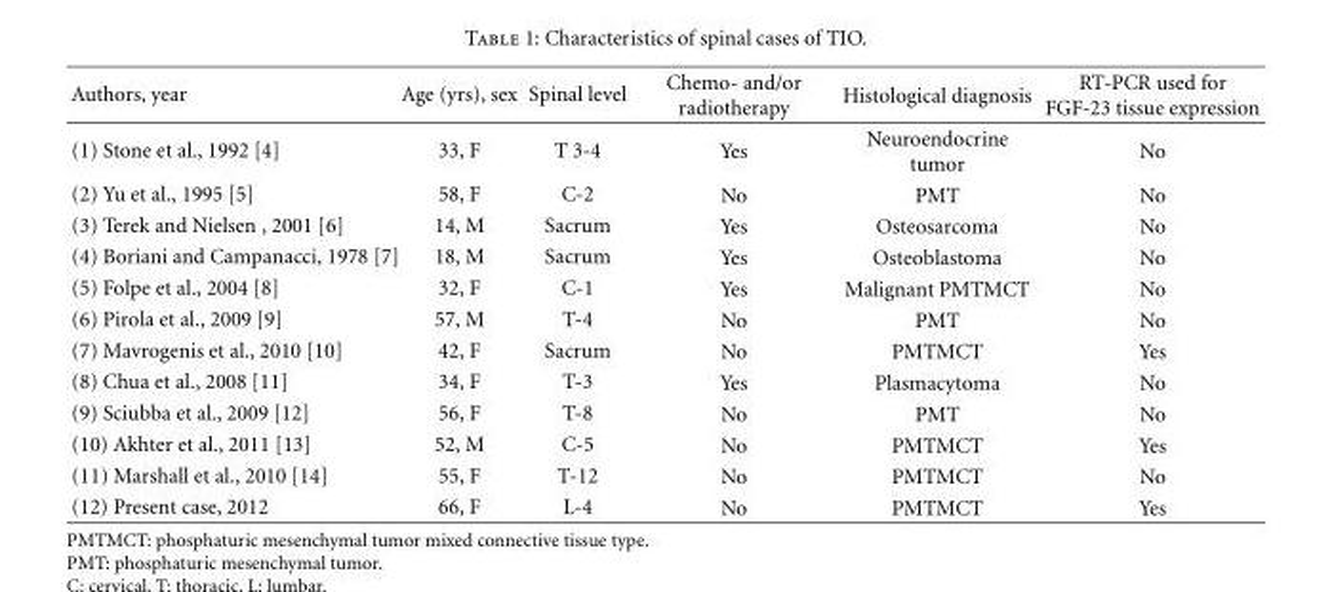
<table><thead><tr><td>Authors, year</td><td>Age (yrs), sex</td><td>Spinal level</td><td>Chemo- and/or radiotherapy</td><td>Histological diagnosis</td><td>RT-PCR used for FGF-23 tissue expression</td></tr></thead><tbody><tr><td>(1) Stone et al., 1992 [4]</td><td>33, F</td><td>T 3-4</td><td>Yes</td><td>Neuroendocrine tumor</td><td>No</td></tr><tr><td>(2) Yu et al., 1995 [5]</td><td>58, F</td><td>C-2</td><td>No</td><td>PMT</td><td>No</td></tr><tr><td>(3) Terek and Nielsen , 2001 [6]</td><td>14, M</td><td>Sacrum</td><td>Yes</td><td>Osteosarcoma</td><td>No</td></tr><tr><td>(4) Boriani and Campanacci, 1978 [7]</td><td>18, M</td><td>Sacrum</td><td>Yes</td><td>Osteoblastoma</td><td>No</td></tr><tr><td>(5) Folpe et al., 2004 [8]</td><td>32, F</td><td>C-1</td><td>Yes</td><td>Malignant PMTMCT</td><td>No</td></tr><tr><td>(6) Pirola et al., 2009 [9]</td><td>57, M</td><td>T-4</td><td>No</td><td>PMT</td><td>No</td></tr><tr><td>(7) Mavrogenis et al., 2010 [10]</td><td>42, F</td><td>Sacrum</td><td>No</td><td>PMTMCT</td><td>Yes</td></tr><tr><td>(8) Chua et al., 2008 [11]</td><td>34, F</td><td>T-3</td><td>Yes</td><td>Plasmacytoma</td><td>No</td></tr><tr><td>(9) Sciubba et al., 2009 [12]</td><td>56, F</td><td>T-8</td><td>No</td><td>PMT</td><td>No</td></tr><tr><td>(10) Akhter et al., 2011 [13]</td><td>52, M</td><td>C-5</td><td>No</td><td>PMTMCT</td><td>Yes</td></tr><tr><td>(11) Marshall et al., 2010 [14]</td><td>55, F</td><td>T-12</td><td>No</td><td>PMTMCT</td><td>No</td></tr><tr><td>(12) Present case, 2012</td><td>66, F</td><td>L-4</td><td>No</td><td>PMTMCT</td><td>Yes</td></tr></tbody></table>